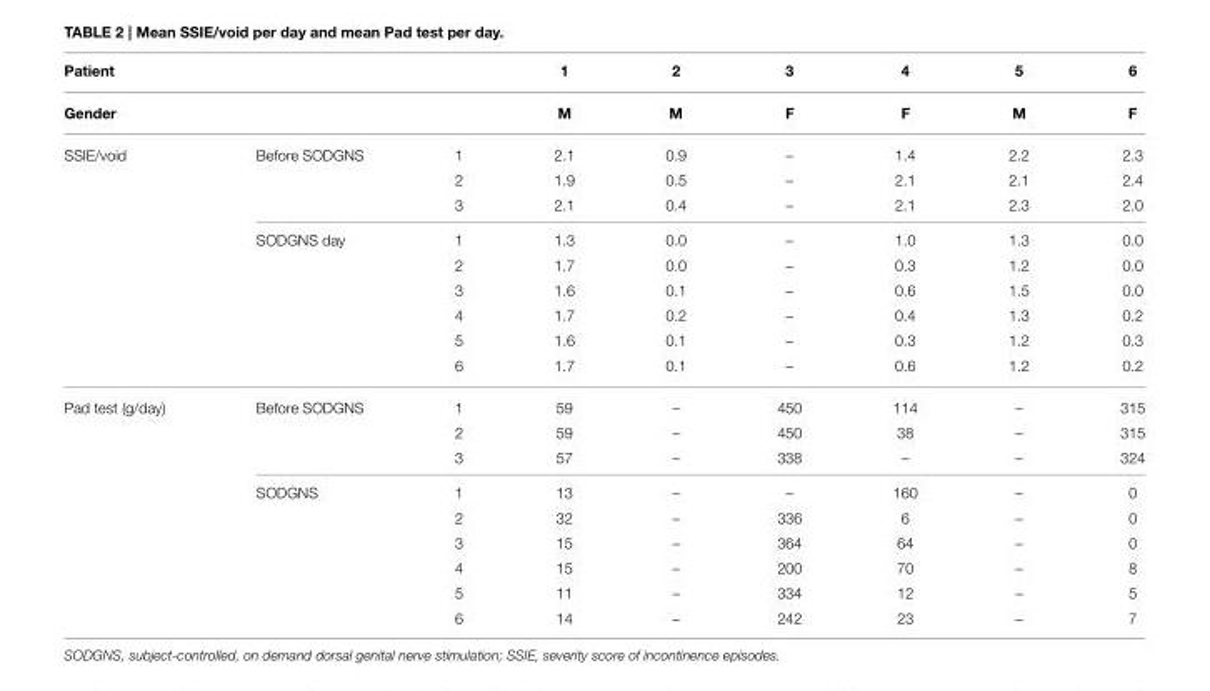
<table><thead><tr><td rowspan="2" colspan="3">Patient Gender</td><td rowspan="3">1 M 2.1</td><td rowspan="3">2 M 0.9</td><td rowspan="3">3 F –</td><td rowspan="3">4 F 1.4</td><td rowspan="3">5 M 2.2</td><td rowspan="3">6 F 2.3</td></tr><tr></tr><tr><td>SSIE/void</td><td>Before SODGNS</td><td>1</td></tr></thead><tbody><tr><td></td><td></td><td>2</td><td>1.9</td><td>0.5</td><td>–</td><td>2.1</td><td>2.1</td><td>2.4</td></tr><tr><td></td><td></td><td>3</td><td>2.1</td><td>0.4</td><td>–</td><td>2.1</td><td>2.3</td><td>2.0</td></tr><tr><td></td><td>SODGNS day</td><td>1</td><td>1.3</td><td>0.0</td><td>–</td><td>1.0</td><td>1.3</td><td>0.0</td></tr><tr><td></td><td></td><td>2</td><td>1.7</td><td>0.0</td><td>–</td><td>0.3</td><td>1.2</td><td>0.0</td></tr><tr><td></td><td></td><td>3</td><td>1.6</td><td>0.1</td><td>–</td><td>0.6</td><td>1.5</td><td>0.0</td></tr><tr><td></td><td></td><td>4</td><td>1.7</td><td>0.2</td><td>–</td><td>0.4</td><td>1.3</td><td>0.2</td></tr><tr><td></td><td></td><td>5</td><td>1.6</td><td>0.1</td><td>–</td><td>0.3</td><td>1.2</td><td>0.3</td></tr><tr><td></td><td></td><td>6</td><td>1.7</td><td>0.1</td><td>–</td><td>0.6</td><td>1.2</td><td>0.2</td></tr><tr><td rowspan="9">Pad test (g/day)</td><td>Before SODGNS</td><td>1</td><td>59</td><td>–</td><td>450</td><td>114</td><td>–</td><td>315</td></tr><tr><td></td><td>2</td><td>59</td><td>–</td><td>450</td><td>38</td><td>–</td><td>315</td></tr><tr><td></td><td>3</td><td>57</td><td>–</td><td>338</td><td>–</td><td>–</td><td>324</td></tr><tr><td>SODGNS</td><td>1</td><td>13</td><td>–</td><td>–</td><td>160</td><td>–</td><td>0</td></tr><tr><td></td><td>2</td><td>32</td><td>–</td><td>336</td><td>6</td><td>–</td><td>0</td></tr><tr><td></td><td>3</td><td>15</td><td>–</td><td>364</td><td>64</td><td>–</td><td>0</td></tr><tr><td></td><td>4</td><td>15</td><td>–</td><td>200</td><td>70</td><td>–</td><td>8</td></tr><tr><td></td><td>5</td><td>11</td><td>–</td><td>334</td><td>12</td><td>–</td><td>5</td></tr><tr><td></td><td>6</td><td>14</td><td>–</td><td>242</td><td>23</td><td>–</td><td>7</td></tr></tbody></table>